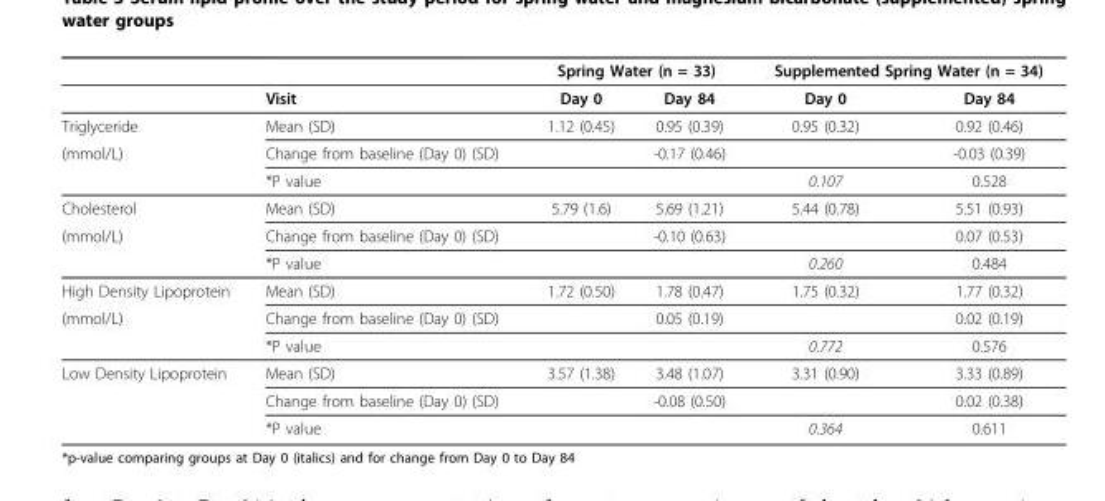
<table><thead><tr><td rowspan="2"></td><td rowspan="2">Visit</td><td colspan="2">Spring Water (n = 33)</td><td colspan="2">Supplemented Spring Water (n = 34)</td></tr><tr><td>Day 0</td><td>Day 84</td><td>Day 0</td><td>Day 84</td></tr></thead><tbody><tr><td>Triglyceride</td><td>Mean (SD)</td><td>1.12 (0.45)</td><td>0.95 (0.39)</td><td>0.95 (0.32)</td><td>0.92 (0.46)</td></tr><tr><td rowspan="2">(mmol/L)</td><td>Change from baseline (Day 0) (SD)</td><td></td><td>-0.17 (0.46)</td><td></td><td>-0.03 (0.39)</td></tr><tr><td>*P value</td><td></td><td></td><td>0.107</td><td>0.528</td></tr><tr><td>Cholesterol</td><td>Mean (SD)</td><td>5.79 (1.6)</td><td>5.69 (1.21)</td><td>5.44 (0.78)</td><td>5.51 (0.93)</td></tr><tr><td rowspan="2">(mmol/L)</td><td>Change from baseline (Day 0) (SD)</td><td></td><td>-0.10 (0.63)</td><td></td><td>0.07 (0.53)</td></tr><tr><td>*P value</td><td></td><td></td><td>0.260</td><td>0.484</td></tr><tr><td>High Density Lipoprotein</td><td>Mean (SD)</td><td>1.72 (0.50)</td><td>1.78 (0.47)</td><td>1.75 (0.32)</td><td>1.77 (0.32)</td></tr><tr><td rowspan="2">(mmol/L)</td><td>Change from baseline (Day 0) (SD)</td><td></td><td>0.05 (0.19)</td><td></td><td>0.02 (0.19)</td></tr><tr><td>*P value</td><td></td><td></td><td>0.772</td><td>0.576</td></tr><tr><td rowspan="3">Low Density Lipoprotein</td><td>Mean (SD)</td><td>3.57 (1.38)</td><td>3.48 (1.07)</td><td>3.31 (0.90)</td><td>3.33 (0.89)</td></tr><tr><td>Change from baseline (Day 0) (SD)</td><td></td><td>-0.08 (0.50)</td><td></td><td>0.02 (0.38)</td></tr><tr><td>*P value</td><td></td><td></td><td>0.364</td><td>0.611</td></tr></tbody></table>